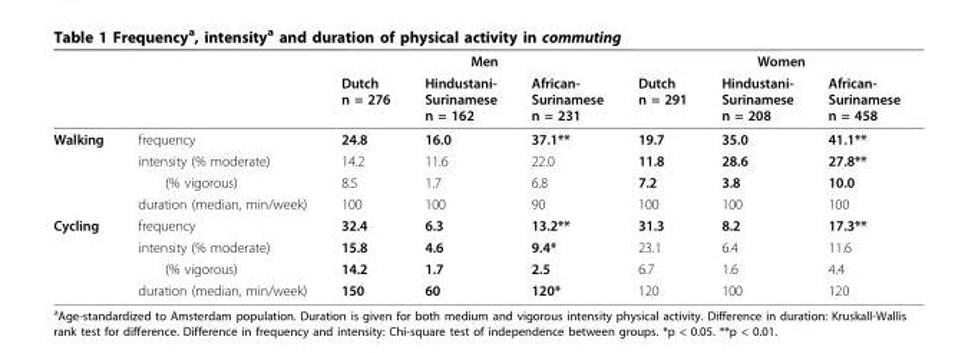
<table><thead><tr><td rowspan="2"></td><td rowspan="2"></td><td colspan="3">Men</td><td colspan="3">Women</td></tr><tr><td>Dutch n = 276</td><td>Hindustani- Surinamese n = 162</td><td>African- Surinamese n = 231</td><td>Dutch n = 291</td><td>Hindustani- Surinamese n = 208</td><td>African- Surinamese n = 458</td></tr></thead><tbody><tr><td rowspan="4">Walking</td><td>frequency</td><td>24.8</td><td>16.0</td><td>37.1**</td><td>19.7</td><td>35.0</td><td>41.1**</td></tr><tr><td>intensity (% moderate)</td><td>14.2</td><td>11.6</td><td>22.0</td><td>11.8</td><td>28.6</td><td>27.8**</td></tr><tr><td>(% vigorous)</td><td>8.5</td><td>1.7</td><td>6.8</td><td>7.2</td><td>3.8</td><td>10.0</td></tr><tr><td>duration (median, min/week)</td><td>100</td><td>100</td><td>90</td><td>100</td><td>100</td><td>100</td></tr><tr><td rowspan="4">Cycling</td><td>frequency</td><td>32.4</td><td>6.3</td><td>13.2**</td><td>31.3</td><td>8.2</td><td>17.3**</td></tr><tr><td>intensity (% moderate)</td><td>15.8</td><td>4.6</td><td>9.4*</td><td>23.1</td><td>6.4</td><td>11.6</td></tr><tr><td>(% vigorous)</td><td>14.2</td><td>1.7</td><td>2.5</td><td>6.7</td><td>1.6</td><td>4.4</td></tr><tr><td>duration (median, min/week)</td><td>150</td><td>60</td><td>120*</td><td>120</td><td>100</td><td>120</td></tr></tbody></table>